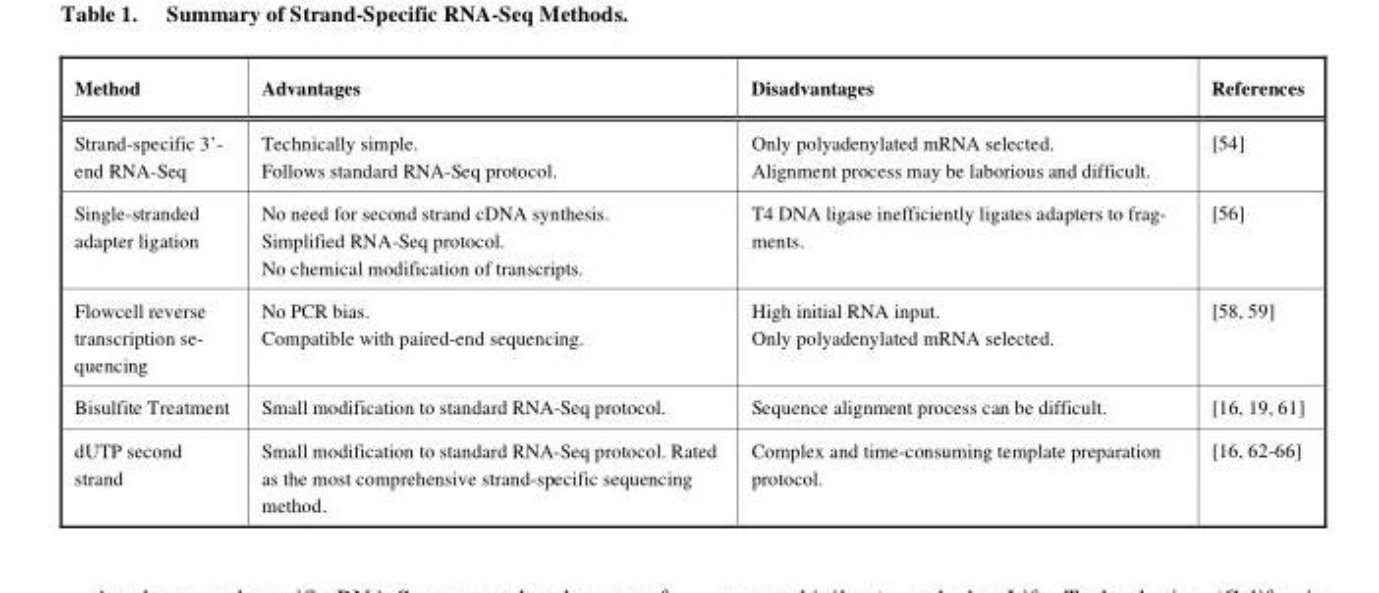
<table><thead><tr><td>Method</td><td>Advantages</td><td>Disadvantages</td><td>References</td></tr></thead><tbody><tr><td>Strand-specific 3’- end RNA-Seq</td><td>Technically simple. Follows standard RNA-Seq protocol.</td><td>Only polyadenylated mRNA selected. Alignment process may be laborious and difficult.</td><td>[54]</td></tr><tr><td>Single-stranded adapter ligation</td><td>No need for second strand cDNA synthesis. Simplified RNA-Seq protocol. No chemical modification of transcripts.</td><td>T4 DNA ligase inefficiently ligates adapters to frag- ments.</td><td>[56]</td></tr><tr><td>Flowcell reverse transcription se- quencing</td><td>No PCR bias. Compatible with paired-end sequencing.</td><td>High initial RNA input. Only polyadenylated mRNA selected.</td><td>[58, 59]</td></tr><tr><td>Bisulfite Treatment</td><td>Small modification to standard RNA-Seq protocol.</td><td>Sequence alignment process can be difficult.</td><td>[16, 19, 61]</td></tr><tr><td>dUTP second strand</td><td>Small modification to standard RNA-Seq protocol. Rated as the most comprehensive strand-specific sequencing method.</td><td>Complex and time-consuming template preparation protocol.</td><td>[16, 62-66]</td></tr></tbody></table>